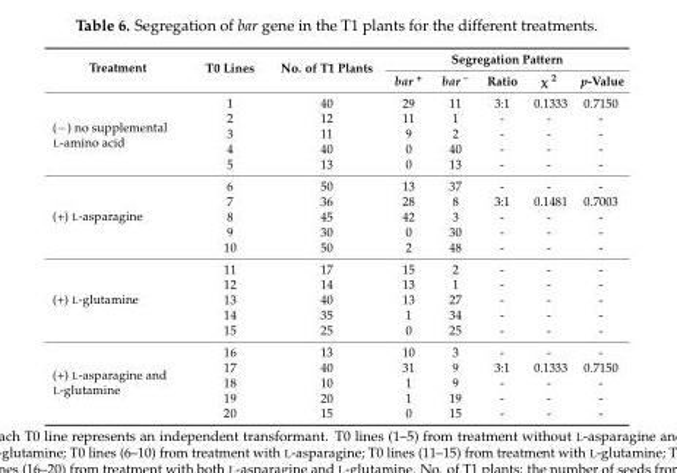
<table><thead><tr><td rowspan="2">Treatment</td><td rowspan="2">T0 Lines</td><td rowspan="2">No. of T1 Plants</td><td colspan="5">Segregation Pattern</td></tr><tr><td>bar <sup>+</sup></td><td>bar <sup>–</sup></td><td>Ratio</td><td>χ <sup>2</sup></td><td>p-Value</td></tr></thead><tbody><tr><td rowspan="5">(−) no supplemental L-amino acid</td><td>1</td><td>40</td><td>29</td><td>11</td><td>3:1</td><td>0.1333</td><td>0.7150</td></tr><tr><td>2</td><td>12</td><td>11</td><td>1</td><td>-</td><td>-</td><td>-</td></tr><tr><td>3</td><td>11</td><td>9</td><td>2</td><td>-</td><td>-</td><td>-</td></tr><tr><td>4</td><td>40</td><td>0</td><td>40</td><td>-</td><td>-</td><td>-</td></tr><tr><td>5</td><td>13</td><td>0</td><td>13</td><td>-</td><td>-</td><td>-</td></tr><tr><td rowspan="5">(+) L-asparagine</td><td>6</td><td>50</td><td>13</td><td>37</td><td>-</td><td>-</td><td>-</td></tr><tr><td>7</td><td>36</td><td>28</td><td>8</td><td>3:1</td><td>0.1481</td><td>0.7003</td></tr><tr><td>8</td><td>45</td><td>42</td><td>3</td><td>-</td><td>-</td><td>-</td></tr><tr><td>9</td><td>30</td><td>0</td><td>30</td><td>-</td><td>-</td><td>-</td></tr><tr><td>10</td><td>50</td><td>2</td><td>48</td><td>-</td><td>-</td><td>-</td></tr><tr><td rowspan="5">(+) L-glutamine</td><td>11</td><td>17</td><td>15</td><td>2</td><td>-</td><td>-</td><td>-</td></tr><tr><td>12</td><td>14</td><td>13</td><td>1</td><td>-</td><td>-</td><td>-</td></tr><tr><td>13</td><td>40</td><td>13</td><td>27</td><td>-</td><td>-</td><td>-</td></tr><tr><td>14</td><td>35</td><td>1</td><td>34</td><td>-</td><td>-</td><td>-</td></tr><tr><td>15</td><td>25</td><td>0</td><td>25</td><td>-</td><td>-</td><td>-</td></tr><tr><td rowspan="5">(+) L-asparagine and L-glutamine</td><td>16</td><td>13</td><td>10</td><td>3</td><td>-</td><td>-</td><td>-</td></tr><tr><td>17</td><td>40</td><td>31</td><td>9</td><td>3:1</td><td>0.1333</td><td>0.7150</td></tr><tr><td>18</td><td>10</td><td>1</td><td>9</td><td>-</td><td>-</td><td>-</td></tr><tr><td>19</td><td>20</td><td>1</td><td>19</td><td>-</td><td>-</td><td>-</td></tr><tr><td>20</td><td>15</td><td>0</td><td>15</td><td>-</td><td>-</td><td>-</td></tr></tbody></table>